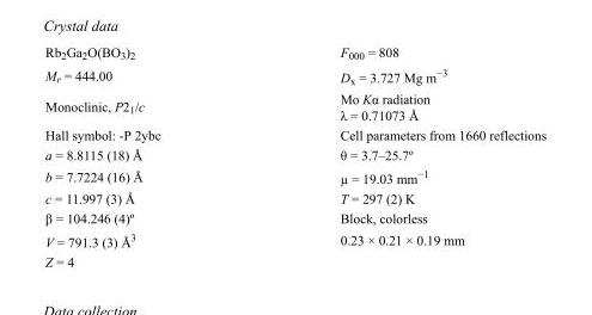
<table><tbody><tr><td>Rb<sub>2</sub>Ga<sub>2</sub>O(BO<sub>3</sub>)<sub>2</sub></td><td>F<sub>000</sub> = 808</td></tr><tr><td>M<sub>r</sub> = 444.00</td><td>D<sub>x</sub> = 3.727 Mg m<sup>−3</sup></td></tr><tr><td>Monoclinic, P2<sub>1</sub>/c</td><td>Mo Kα radiation λ = 0.71073 Å</td></tr><tr><td>Hall symbol: -P 2ybc</td><td>Cell parameters from 1660 reflections</td></tr><tr><td>a = 8.8115 (18) Å</td><td>θ = 3.7–25.7º</td></tr><tr><td>b = 7.7224 (16) Å</td><td>µ = 19.03 mm<sup>−1</sup></td></tr><tr><td>c = 11.997 (3) Å</td><td>T = 297 (2) K</td></tr><tr><td>β = 104.246 (4)º</td><td>Block, colorless</td></tr><tr><td>V = 791.3 (3) Å<sup>3</sup></td><td>0.23 × 0.21 × 0.19 mm</td></tr><tr><td>Z = 4</td><td></td></tr></tbody></table>